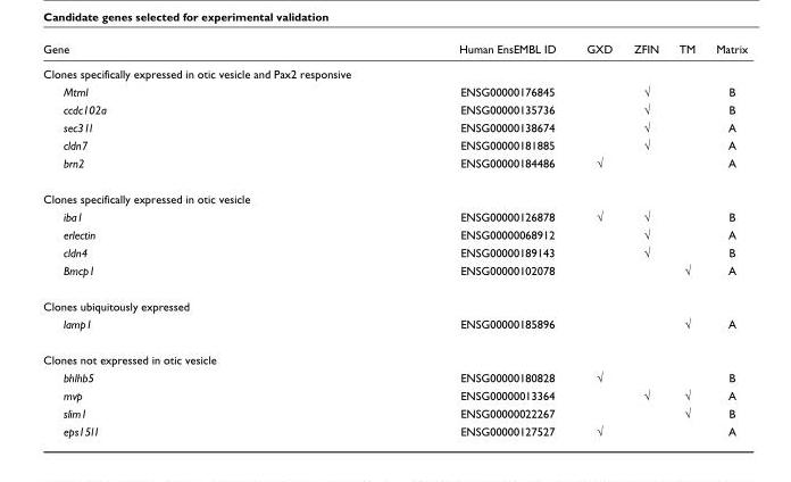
<table><thead><tr><td>Gene</td><td>Human EnsEMBL ID</td><td>GXD</td><td>ZFIN</td><td>TM</td><td>Matrix</td></tr></thead><tbody><tr><td colspan="6">Clones specifically expressed in otic vesicle and Pax2 responsive</td></tr><tr><td>Mtrnl</td><td>ENSG00000176845</td><td></td><td>√</td><td></td><td>B</td></tr><tr><td>ccdc102a</td><td>ENSG00000135736</td><td></td><td>√</td><td></td><td>B</td></tr><tr><td>sec31l</td><td>ENSG00000138674</td><td></td><td>√</td><td></td><td>A</td></tr><tr><td>cldn7</td><td>ENSG00000181885</td><td></td><td>√</td><td></td><td>A</td></tr><tr><td>brn2</td><td>ENSG00000184486</td><td>√</td><td></td><td></td><td>A</td></tr><tr><td colspan="6">Clones specifically expressed in otic vesicle</td></tr><tr><td>iba1</td><td>ENSG00000126878</td><td>√</td><td>√</td><td></td><td>B</td></tr><tr><td>erlectin</td><td>ENSG00000068912</td><td></td><td>√</td><td></td><td>A</td></tr><tr><td>cldn4</td><td>ENSG00000189143</td><td></td><td>√</td><td></td><td>B</td></tr><tr><td>Bmcp1</td><td>ENSG00000102078</td><td></td><td></td><td>√</td><td>A</td></tr><tr><td colspan="6">Clones ubiquitously expressed</td></tr><tr><td>lamp1</td><td>ENSG00000185896</td><td></td><td></td><td>√</td><td>A</td></tr><tr><td colspan="6">Clones not expressed in otic vesicle</td></tr><tr><td>bhlhb5</td><td>ENSG00000180828</td><td>√</td><td></td><td></td><td>B</td></tr><tr><td>mvp</td><td>ENSG00000013364</td><td></td><td>√</td><td>√</td><td>A</td></tr><tr><td>slim1</td><td>ENSG00000022267</td><td></td><td></td><td>√</td><td>B</td></tr><tr><td>eps15l1</td><td>ENSG00000127527</td><td>√</td><td></td><td></td><td>A</td></tr></tbody></table>